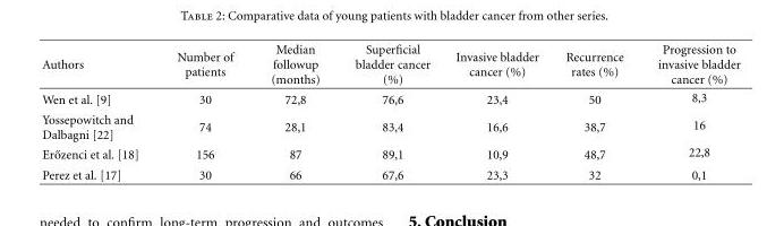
<table><thead><tr><td>Authors</td><td>Number of patients</td><td>Median followup (months)</td><td>Superficial bladder cancer (%)</td><td>Invasive bladder cancer (%)</td><td>Recurrence rates (%)</td><td>Progression to invasive bladder cancer (%)</td></tr></thead><tbody><tr><td>Wen et al. [9]</td><td>30</td><td>72,8</td><td>76,6</td><td>23,4</td><td>50</td><td>8,3</td></tr><tr><td>Yossepowitch and Dalbagni [22]</td><td>74</td><td>28,1</td><td>83,4</td><td>16,6</td><td>38,7</td><td>16</td></tr><tr><td>Er˝ozenci et al. [18]</td><td>156</td><td>87</td><td>89,1</td><td>10,9</td><td>48,7</td><td>22,8</td></tr><tr><td>Perez et al. [17]</td><td>30</td><td>66</td><td>67,6</td><td>23,3</td><td>32</td><td>0,1</td></tr></tbody></table>